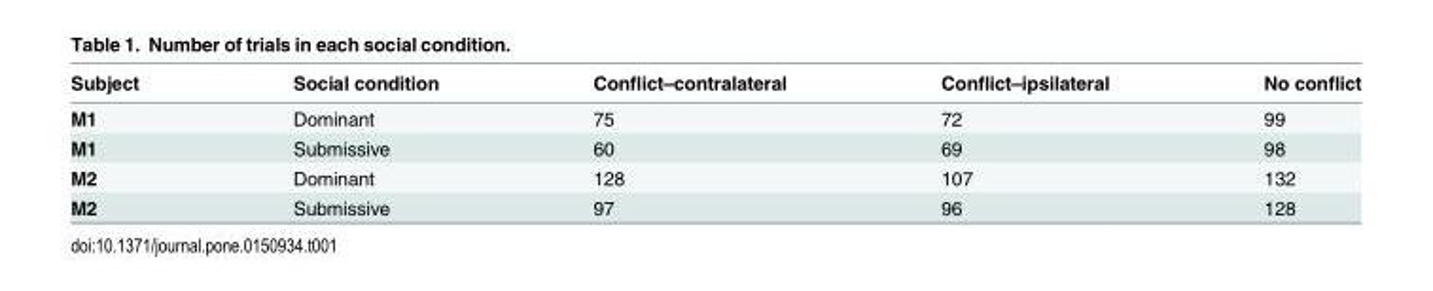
<table><thead><tr><td>Subject</td><td>Social condition</td><td>Conflict–contralateral</td><td>Conflict–ipsilateral</td><td>No conflict</td></tr></thead><tbody><tr><td>M1</td><td>Dominant</td><td>75</td><td>72</td><td>99</td></tr><tr><td>M1</td><td>Submissive</td><td>60</td><td>69</td><td>98</td></tr><tr><td>M2</td><td>Dominant</td><td>128</td><td>107</td><td>132</td></tr><tr><td>M2</td><td>Submissive</td><td>97</td><td>96</td><td>128</td></tr></tbody></table>